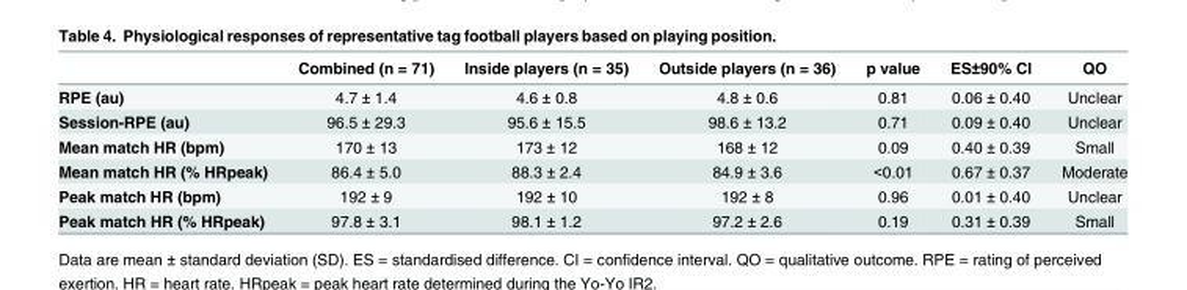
<table><thead><tr><td></td><td>Combined (n = 71)</td><td>Inside players (n = 35)</td><td>Outside players (n = 36)</td><td>p value</td><td>ES±90% CI</td><td>QO</td></tr></thead><tbody><tr><td>RPE (au)</td><td>4.7 ± 1.4</td><td>4.6 ± 0.8</td><td>4.8 ± 0.6</td><td>0.81</td><td>0.06 ± 0.40</td><td>Unclear</td></tr><tr><td>Session-RPE (au)</td><td>96.5 ± 29.3</td><td>95.6 ± 15.5</td><td>98.6 ± 13.2</td><td>0.71</td><td>0.09 ± 0.40</td><td>Unclear</td></tr><tr><td>Mean match HR (bpm)</td><td>170 ± 13</td><td>173 ± 12</td><td>168 ± 12</td><td>0.09</td><td>0.40 ± 0.39</td><td>Small</td></tr><tr><td>Mean match HR (% HRpeak)</td><td>86.4 ± 5.0</td><td>88.3 ± 2.4</td><td>84.9 ± 3.6</td><td>&lt;0.01</td><td>0.67 ± 0.37</td><td>Moderate</td></tr><tr><td>Peak match HR (bpm)</td><td>192 ± 9</td><td>192 ± 10</td><td>192 ± 8</td><td>0.96</td><td>0.01 ± 0.40</td><td>Unclear</td></tr><tr><td>Peak match HR (% HRpeak)</td><td>97.8 ± 3.1</td><td>98.1 ± 1.2</td><td>97.2 ± 2.6</td><td>0.19</td><td>0.31 ± 0.39</td><td>Small</td></tr></tbody></table>